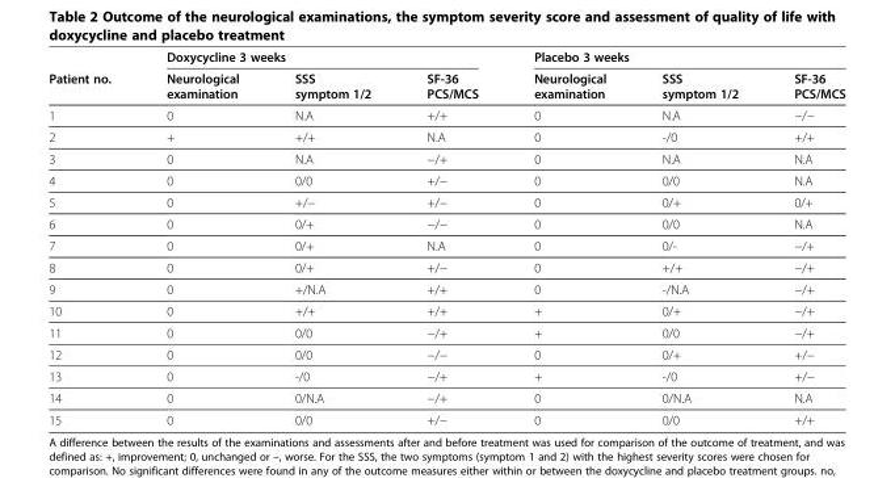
<table><thead><tr><td rowspan="2">Patient no.</td><td colspan="3">Doxycycline 3 weeks</td><td colspan="3">Placebo 3 weeks</td></tr><tr><td>Neurological examination</td><td>SSS symptom 1/2</td><td>SF-36 PCS/MCS</td><td>Neurological examination</td><td>SSS symptom 1/2</td><td>SF-36 PCS/MCS</td></tr></thead><tbody><tr><td>1</td><td>0</td><td>N.A</td><td>+/+</td><td>0</td><td>N.A</td><td>−/−</td></tr><tr><td>2</td><td>+</td><td>+/+</td><td>N.A</td><td>0</td><td>-/0</td><td>+/+</td></tr><tr><td>3</td><td>0</td><td>N.A</td><td>−/+</td><td>0</td><td>N.A</td><td>N.A</td></tr><tr><td>4</td><td>0</td><td>0/0</td><td>+/−</td><td>0</td><td>0/0</td><td>N.A</td></tr><tr><td>5</td><td>0</td><td>+/−</td><td>+/−</td><td>0</td><td>0/+</td><td>0/+</td></tr><tr><td>6</td><td>0</td><td>0/+</td><td>−/−</td><td>0</td><td>0/0</td><td>N.A</td></tr><tr><td>7</td><td>0</td><td>0/+</td><td>N.A</td><td>0</td><td>0/-</td><td>−/+</td></tr><tr><td>8</td><td>0</td><td>0/+</td><td>+/−</td><td>0</td><td>+/+</td><td>−/+</td></tr><tr><td>9</td><td>0</td><td>+/N.A</td><td>+/+</td><td>0</td><td>-/N.A</td><td>−/+</td></tr><tr><td>10</td><td>0</td><td>+/+</td><td>+/+</td><td>+</td><td>0/+</td><td>−/+</td></tr><tr><td>11</td><td>0</td><td>0/0</td><td>−/+</td><td>+</td><td>0/0</td><td>−/+</td></tr><tr><td>12</td><td>0</td><td>0/0</td><td>−/−</td><td>0</td><td>0/+</td><td>+/−</td></tr><tr><td>13</td><td>0</td><td>-/0</td><td>−/+</td><td>+</td><td>-/0</td><td>+/−</td></tr><tr><td>14</td><td>0</td><td>0/N.A</td><td>−/+</td><td>0</td><td>0/N.A</td><td>N.A</td></tr><tr><td>15</td><td>0</td><td>0/0</td><td>+/−</td><td>0</td><td>0/0</td><td>+/+</td></tr></tbody></table>